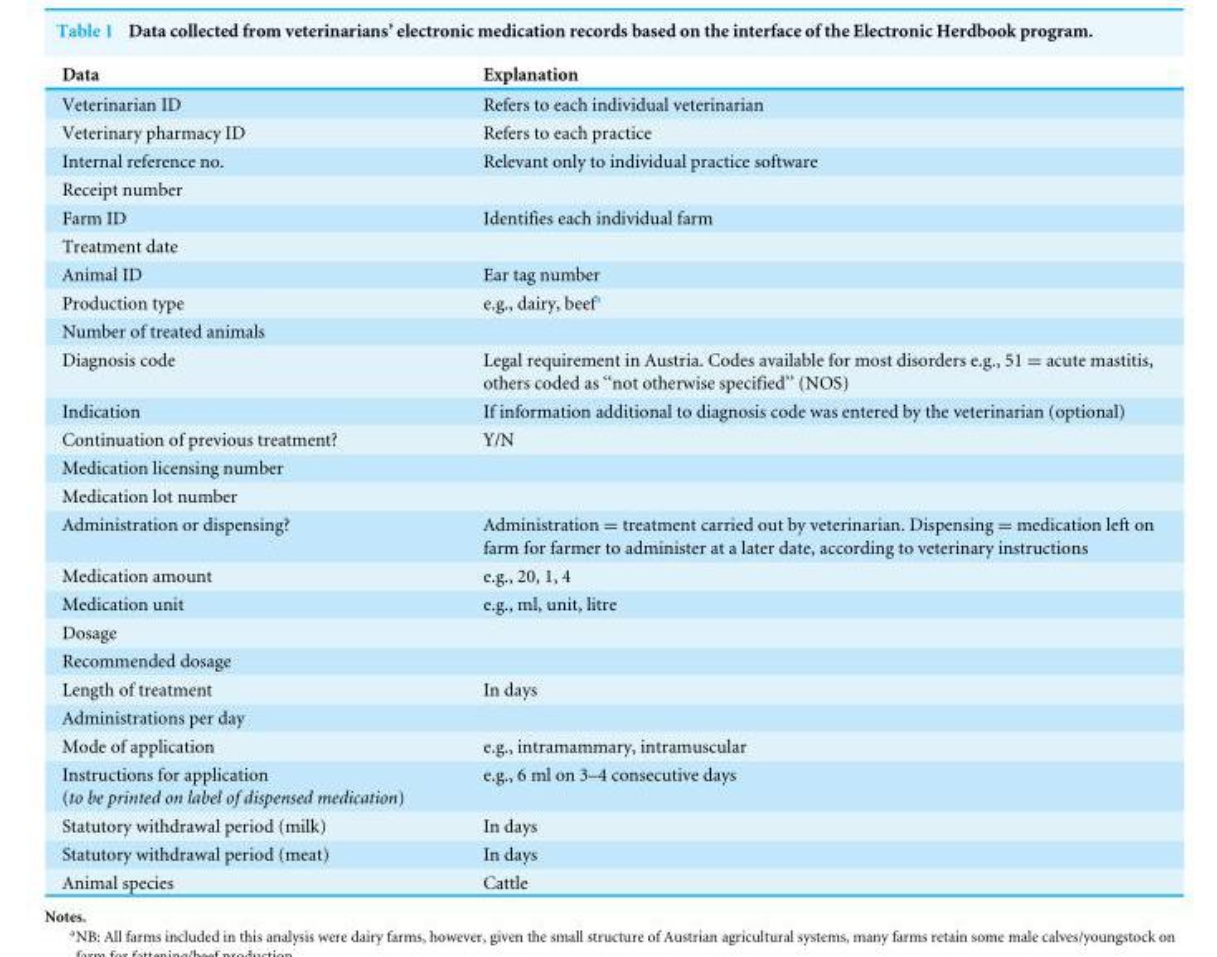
<table><thead><tr><td>Data</td><td>Explanation</td></tr></thead><tbody><tr><td>Veterinarian ID</td><td>Refers to each individual veterinarian</td></tr><tr><td>Veterinary pharmacy ID</td><td>Refers to each practice</td></tr><tr><td>Internal reference no.</td><td>Relevant only to individual practice software</td></tr><tr><td colspan="2">Receipt number</td></tr><tr><td>Farm ID</td><td>Identifies each individual farm</td></tr><tr><td colspan="2">Treatment date</td></tr><tr><td>Animal ID</td><td>Ear tag number</td></tr><tr><td>Production type</td><td>e.g., dairy, beef<sup>a</sup></td></tr><tr><td colspan="2">Number of treated animals</td></tr><tr><td>Diagnosis code</td><td>Legal requirement in Austria. Codes available for most disorders e.g., 51 = acute mastitis, others coded as ‘‘not otherwise specified’’ (NOS)</td></tr><tr><td>Indication</td><td>If information additional to diagnosis code was entered by the veterinarian (optional)</td></tr><tr><td>Continuation of previous treatment?</td><td>Y/N</td></tr><tr><td colspan="2">Medication licensing number</td></tr><tr><td colspan="2">Medication lot number</td></tr><tr><td>Administration or dispensing?</td><td>Administration = treatment carried out by veterinarian. Dispensing = medication left on farm for farmer to administer at a later date, according to veterinary instructions</td></tr><tr><td>Medication amount</td><td>e.g., 20, 1, 4</td></tr><tr><td>Medication unit</td><td>e.g., ml, unit, litre</td></tr><tr><td colspan="2">Dosage</td></tr><tr><td colspan="2">Recommended dosage</td></tr><tr><td>Length of treatment</td><td>In days</td></tr><tr><td colspan="2">Administrations per day</td></tr><tr><td>Mode of application</td><td>e.g., intramammary, intramuscular</td></tr><tr><td>Instructions for application (to be printed on label of dispensed medication)</td><td>e.g., 6 ml on 3–4 consecutive days</td></tr><tr><td>Statutory withdrawal period (milk)</td><td>In days</td></tr><tr><td>Statutory withdrawal period (meat)</td><td>In days</td></tr><tr><td>Animal species</td><td>Cattle</td></tr></tbody></table>